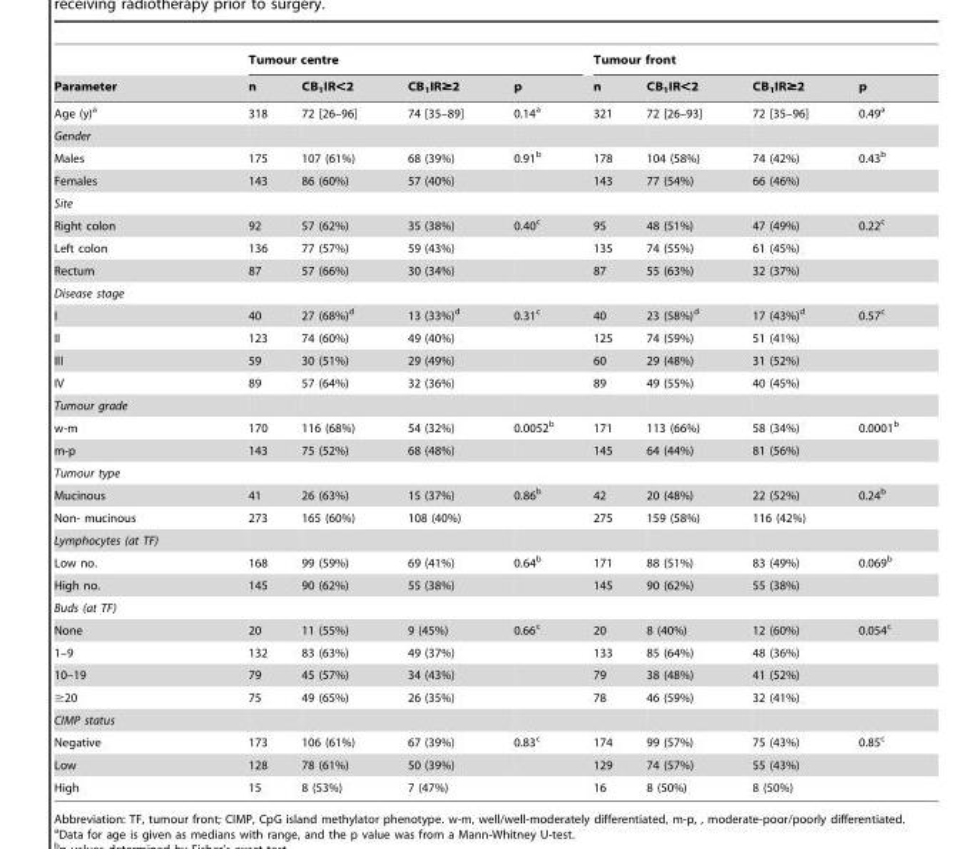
<table><thead><tr><td rowspan="2">Parameter</td><td colspan="4">Tumour centre</td><td colspan="4">Tumour front</td></tr><tr><td>n</td><td>CB<sub>1</sub>IR&lt;2</td><td>CB<sub>1</sub>IR≥2</td><td>p</td><td>n</td><td>CB<sub>1</sub>IR&lt;2</td><td>CB<sub>1</sub>IR≥2</td><td>p</td></tr></thead><tbody><tr><td>Age (y)<sup>a</sup></td><td>318</td><td>72 [26–96]</td><td>74 [35–89]</td><td>0.14<sup>a</sup></td><td>321</td><td>72 [26–93]</td><td>72 [35–96]</td><td>0.49<sup>a</sup></td></tr><tr><td colspan="9">Gender</td></tr><tr><td>Males</td><td>175</td><td>107 (61%)</td><td>68 (39%)</td><td>0.91<sup>b</sup></td><td>178</td><td>104 (58%)</td><td>74 (42%)</td><td>0.43<sup>b</sup></td></tr><tr><td>Females</td><td>143</td><td>86 (60%)</td><td>57 (40%)</td><td></td><td>143</td><td>77 (54%)</td><td>66 (46%)</td><td></td></tr><tr><td colspan="9">Site</td></tr><tr><td>Right colon</td><td>92</td><td>57 (62%)</td><td>35 (38%)</td><td>0.40<sup>c</sup></td><td>95</td><td>48 (51%)</td><td>47 (49%)</td><td>0.22<sup>c</sup></td></tr><tr><td>Left colon</td><td>136</td><td>77 (57%)</td><td>59 (43%)</td><td></td><td>135</td><td>74 (55%)</td><td>61 (45%)</td><td></td></tr><tr><td>Rectum</td><td>87</td><td>57 (66%)</td><td>30 (34%)</td><td></td><td>87</td><td>55 (63%)</td><td>32 (37%)</td><td></td></tr><tr><td colspan="9">Disease stage</td></tr><tr><td>I</td><td>40</td><td>27 (68%)<sup>d</sup></td><td>13 (33%)<sup>d</sup></td><td>0.31<sup>c</sup></td><td>40</td><td>23 (58%)<sup>d</sup></td><td>17 (43%)<sup>d</sup></td><td>0.57<sup>c</sup></td></tr><tr><td>II</td><td>123</td><td>74 (60%)</td><td>49 (40%)</td><td></td><td>125</td><td>74 (59%)</td><td>51 (41%)</td><td></td></tr><tr><td>III</td><td>59</td><td>30 (51%)</td><td>29 (49%)</td><td></td><td>60</td><td>29 (48%)</td><td>31 (52%)</td><td></td></tr><tr><td>IV</td><td>89</td><td>57 (64%)</td><td>32 (36%)</td><td></td><td>89</td><td>49 (55%)</td><td>40 (45%)</td><td></td></tr><tr><td colspan="9">Tumour grade</td></tr><tr><td>w-m</td><td>170</td><td>116 (68%)</td><td>54 (32%)</td><td>0.0052<sup>b</sup></td><td>171</td><td>113 (66%)</td><td>58 (34%)</td><td>0.0001<sup>b</sup></td></tr><tr><td>m-p</td><td>143</td><td>75 (52%)</td><td>68 (48%)</td><td></td><td>145</td><td>64 (44%)</td><td>81 (56%)</td><td></td></tr><tr><td colspan="9">Tumour type</td></tr><tr><td>Mucinous</td><td>41</td><td>26 (63%)</td><td>15 (37%)</td><td>0.86<sup>b</sup></td><td>42</td><td>20 (48%)</td><td>22 (52%)</td><td>0.24<sup>b</sup></td></tr><tr><td>Non- mucinous</td><td>273</td><td>165 (60%)</td><td>108 (40%)</td><td></td><td>275</td><td>159 (58%)</td><td>116 (42%)</td><td></td></tr><tr><td colspan="9">Lymphocytes (at TF)</td></tr><tr><td>Low no.</td><td>168</td><td>99 (59%)</td><td>69 (41%)</td><td>0.64<sup>b</sup></td><td>171</td><td>88 (51%)</td><td>83 (49%)</td><td>0.069<sup>b</sup></td></tr><tr><td>High no.</td><td>145</td><td>90 (62%)</td><td>55 (38%)</td><td></td><td>145</td><td>90 (62%)</td><td>55 (38%)</td><td></td></tr><tr><td colspan="9">Buds (at TF)</td></tr><tr><td>None</td><td>20</td><td>11 (55%)</td><td>9 (45%)</td><td>0.66<sup>c</sup></td><td>20</td><td>8 (40%)</td><td>12 (60%)</td><td>0.054<sup>c</sup></td></tr><tr><td>1–9</td><td>132</td><td>83 (63%)</td><td>49 (37%)</td><td></td><td>133</td><td>85 (64%)</td><td>48 (36%)</td><td></td></tr><tr><td>10–19</td><td>79</td><td>45 (57%)</td><td>34 (43%)</td><td></td><td>79</td><td>38 (48%)</td><td>41 (52%)</td><td></td></tr><tr><td>≥20</td><td>75</td><td>49 (65%)</td><td>26 (35%)</td><td></td><td>78</td><td>46 (59%)</td><td>32 (41%)</td><td></td></tr><tr><td colspan="9">CIMP status</td></tr><tr><td>Negative</td><td>173</td><td>106 (61%)</td><td>67 (39%)</td><td>0.83<sup>c</sup></td><td>174</td><td>99 (57%)</td><td>75 (43%)</td><td>0.85<sup>c</sup></td></tr><tr><td>Low</td><td>128</td><td>78 (61%)</td><td>50 (39%)</td><td></td><td>129</td><td>74 (57%)</td><td>55 (43%)</td><td></td></tr><tr><td>High</td><td>15</td><td>8 (53%)</td><td>7 (47%)</td><td></td><td>16</td><td>8 (50%)</td><td>8 (50%)</td><td></td></tr></tbody></table>